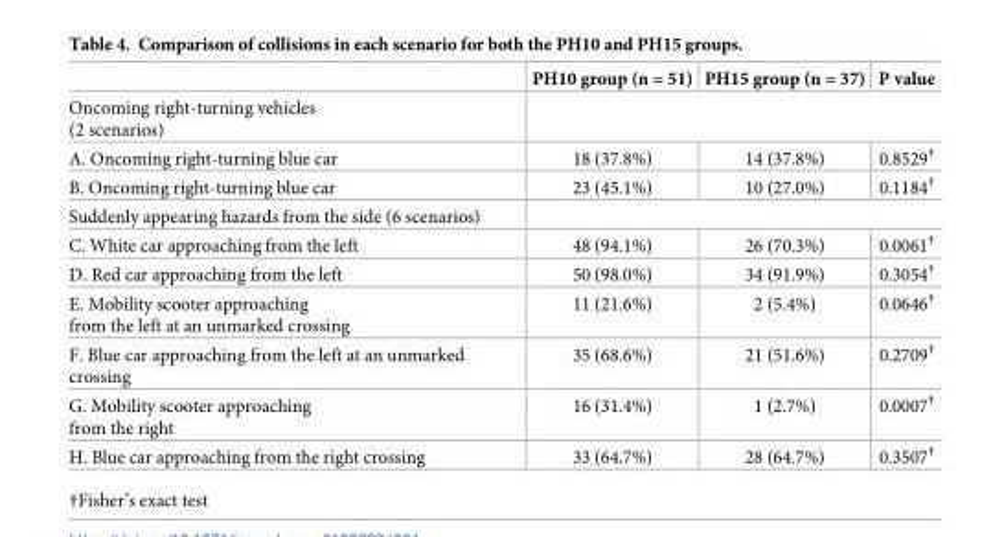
<table><thead><tr><td></td><td>PH10 group (n = 51)</td><td>PH15 group (n = 37)</td><td>P value</td></tr></thead><tbody><tr><td colspan="4">Oncoming right-turning vehicles (2 scenarios)</td></tr><tr><td>A. Oncoming right-turning blue car</td><td>18 (37.8%)</td><td>14 (37.8%)</td><td>0.8529<sup>†</sup></td></tr><tr><td>B. Oncoming right-turning blue car</td><td>23 (45.1%)</td><td>10 (27.0%)</td><td>0.1184<sup>†</sup></td></tr><tr><td colspan="4">Suddenly appearing hazards from the side (6 scenarios)</td></tr><tr><td>C. White car approaching from the left</td><td>48 (94.1%)</td><td>26 (70.3%)</td><td>0.0061<sup>†</sup></td></tr><tr><td>D. Red car approaching from the left</td><td>50 (98.0%)</td><td>34 (91.9%)</td><td>0.3054<sup>†</sup></td></tr><tr><td>E. Mobility scooter approaching from the left at an unmarked crossing</td><td>11 (21.6%)</td><td>2 (5.4%)</td><td>0.0646<sup>†</sup></td></tr><tr><td>F. Blue car approaching from the left at an unmarked crossing</td><td>35 (68.6%)</td><td>21 (51.6%)</td><td>0.2709<sup>†</sup></td></tr><tr><td>G. Mobility scooter approaching from the right</td><td>16 (31.4%)</td><td>1 (2.7%)</td><td>0.0007<sup>†</sup></td></tr><tr><td>H. Blue car approaching from the right crossing</td><td>33 (64.7%)</td><td>28 (64.7%)</td><td>0.3507<sup>†</sup></td></tr></tbody></table>